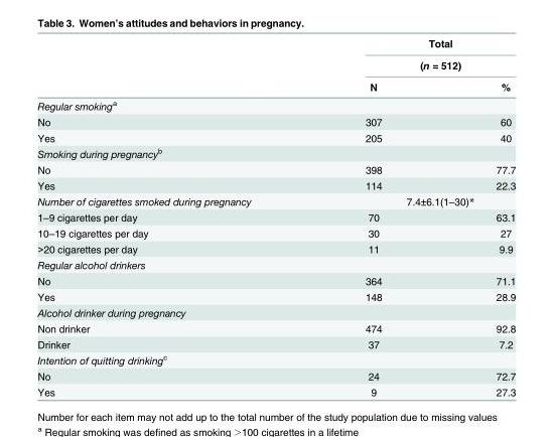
<table><thead><tr><td rowspan="3"></td><td rowspan="2" colspan="2">Total (n = 512)</td></tr><tr></tr><tr><td>N</td><td>%</td></tr></thead><tbody><tr><td colspan="3">Regular smoking<sup>a</sup></td></tr><tr><td>No</td><td>307</td><td>60</td></tr><tr><td>Yes</td><td>205</td><td>40</td></tr><tr><td colspan="3">Smoking during pregnancy<sup>b</sup></td></tr><tr><td>No</td><td>398</td><td>77.7</td></tr><tr><td>Yes</td><td>114</td><td>22.3</td></tr><tr><td>Number of cigarettes smoked during pregnancy</td><td colspan="2">7.4±6.1(1–30)*</td></tr><tr><td>1–9 cigarettes per day</td><td>70</td><td>63.1</td></tr><tr><td>10–19 cigarettes per day</td><td>30</td><td>27</td></tr><tr><td>&gt;20 cigarettes per day</td><td>11</td><td>9.9</td></tr><tr><td colspan="3">Regular alcohol drinkers</td></tr><tr><td>No</td><td>364</td><td>71.1</td></tr><tr><td>Yes</td><td>148</td><td>28.9</td></tr><tr><td colspan="3">Alcohol drinker during pregnancy</td></tr><tr><td>Non drinker</td><td>474</td><td>92.8</td></tr><tr><td>Drinker</td><td>37</td><td>7.2</td></tr><tr><td colspan="3">Intention of quitting drinking<sup>c</sup></td></tr><tr><td>No</td><td>24</td><td>72.7</td></tr><tr><td>Yes</td><td>9</td><td>27.3</td></tr></tbody></table>